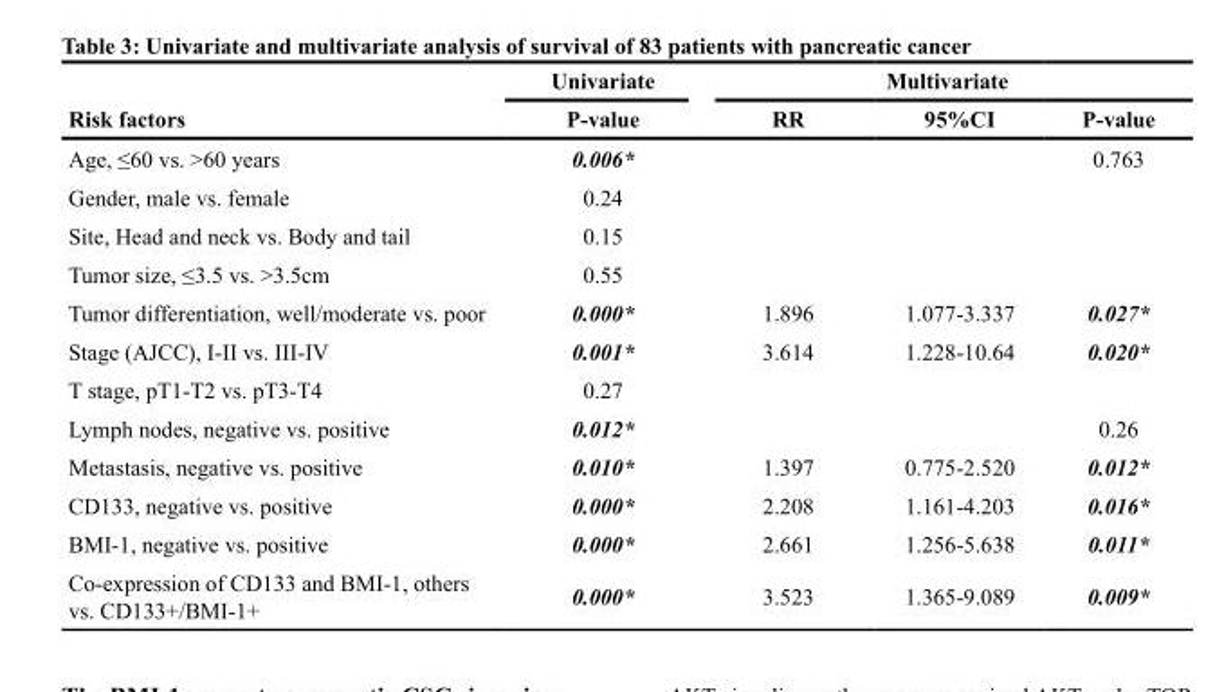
<table><thead><tr><td rowspan="2">Risk factors</td><td rowspan="2">Univariate P-value</td><td colspan="3">Multivariate</td></tr><tr><td>RR</td><td>95%CI</td><td>P-value</td></tr></thead><tbody><tr><td>Age, ≤60 vs. &gt;60 years</td><td>0.006*</td><td></td><td></td><td>0.763</td></tr><tr><td>Gender, male vs. female</td><td>0.24</td><td></td><td></td><td></td></tr><tr><td>Site, Head and neck vs. Body and tail</td><td>0.15</td><td></td><td></td><td></td></tr><tr><td>Tumor size, ≤3.5 vs. &gt;3.5cm</td><td>0.55</td><td></td><td></td><td></td></tr><tr><td>Tumor differentiation, well/moderate vs. poor</td><td>0.000*</td><td>1.896</td><td>1.077-3.337</td><td>0.027*</td></tr><tr><td>Stage (AJCC), I-II vs. III-IV</td><td>0.001*</td><td>3.614</td><td>1.228-10.64</td><td>0.020*</td></tr><tr><td>T stage, pT1-T2 vs. pT3-T4</td><td>0.27</td><td></td><td></td><td></td></tr><tr><td>Lymph nodes, negative vs. positive</td><td>0.012*</td><td></td><td></td><td>0.26</td></tr><tr><td>Metastasis, negative vs. positive</td><td>0.010*</td><td>1.397</td><td>0.775-2.520</td><td>0.012*</td></tr><tr><td>CD133, negative vs. positive</td><td>0.000*</td><td>2.208</td><td>1.161-4.203</td><td>0.016*</td></tr><tr><td>BMI-1, negative vs. positive</td><td>0.000*</td><td>2.661</td><td>1.256-5.638</td><td>0.011*</td></tr><tr><td>Co-expression of CD133 and BMI-1, others vs. CD133+/BMI-1+</td><td>0.000*</td><td>3.523</td><td>1.365-9.089</td><td>0.009*</td></tr></tbody></table>